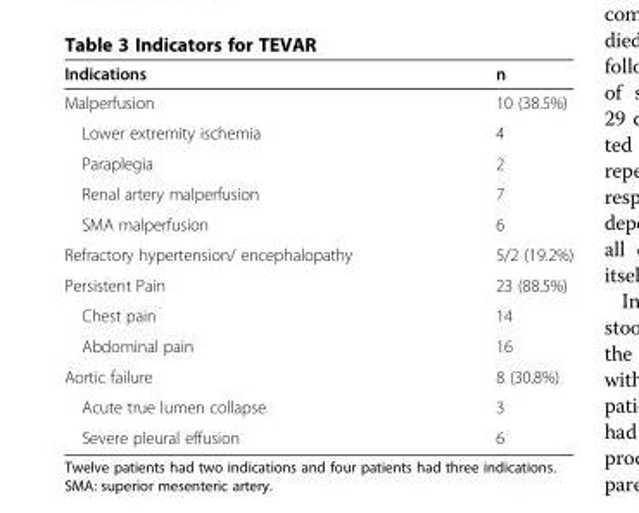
<table><thead><tr><td>Indications</td><td>n</td></tr></thead><tbody><tr><td>Malperfusion</td><td>10 (38.5%)</td></tr><tr><td>Lower extremity ischemia</td><td>4</td></tr><tr><td>Paraplegia</td><td>2</td></tr><tr><td>Renal artery malperfusion</td><td>7</td></tr><tr><td>SMA malperfusion</td><td>6</td></tr><tr><td>Refractory hypertension/ encephalopathy</td><td>5/2 (19.2%)</td></tr><tr><td>Persistent Pain</td><td>23 (88.5%)</td></tr><tr><td>Chest pain</td><td>14</td></tr><tr><td>Abdominal pain</td><td>16</td></tr><tr><td>Aortic failure</td><td>8 (30.8%)</td></tr><tr><td>Acute true lumen collapse</td><td>3</td></tr><tr><td>Severe pleural effusion</td><td>6</td></tr></tbody></table>